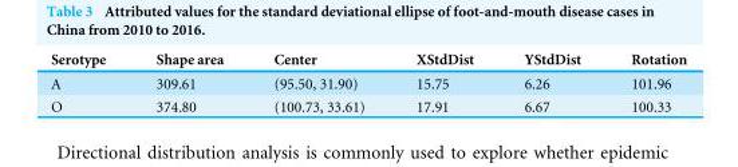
<table><thead><tr><td>Serotype</td><td>Shape area</td><td>Center</td><td>XStdDist</td><td>YStdDist</td><td>Rotation</td></tr></thead><tbody><tr><td>A</td><td>309.61</td><td>(95.50, 31.90)</td><td>15.75</td><td>6.26</td><td>101.96</td></tr><tr><td>O</td><td>374.80</td><td>(100.73, 33.61)</td><td>17.91</td><td>6.67</td><td>100.33</td></tr></tbody></table>